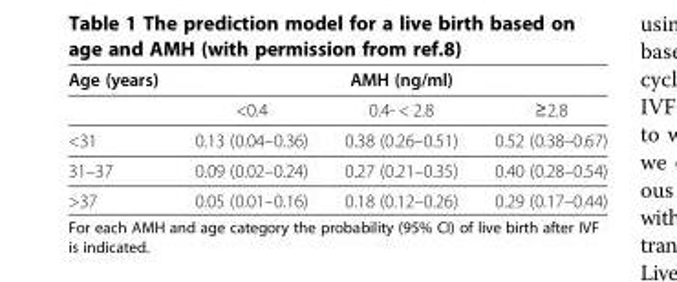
<table><thead><tr><td>Age (years)</td><td></td><td>AMH (ng/ml)</td><td></td></tr></thead><tbody><tr><td></td><td>&lt;0.4</td><td>0.4- &lt; 2.8</td><td>≥2.8</td></tr><tr><td>&lt;31</td><td>0.13 (0.04–0.36)</td><td>0.38 (0.26–0.51)</td><td>0.52 (0.38–0.67)</td></tr><tr><td>31–37</td><td>0.09 (0.02–0.24)</td><td>0.27 (0.21–0.35)</td><td>0.40 (0.28–0.54)</td></tr><tr><td>&gt;37</td><td>0.05 (0.01–0.16)</td><td>0.18 (0.12–0.26)</td><td>0.29 (0.17–0.44)</td></tr></tbody></table>